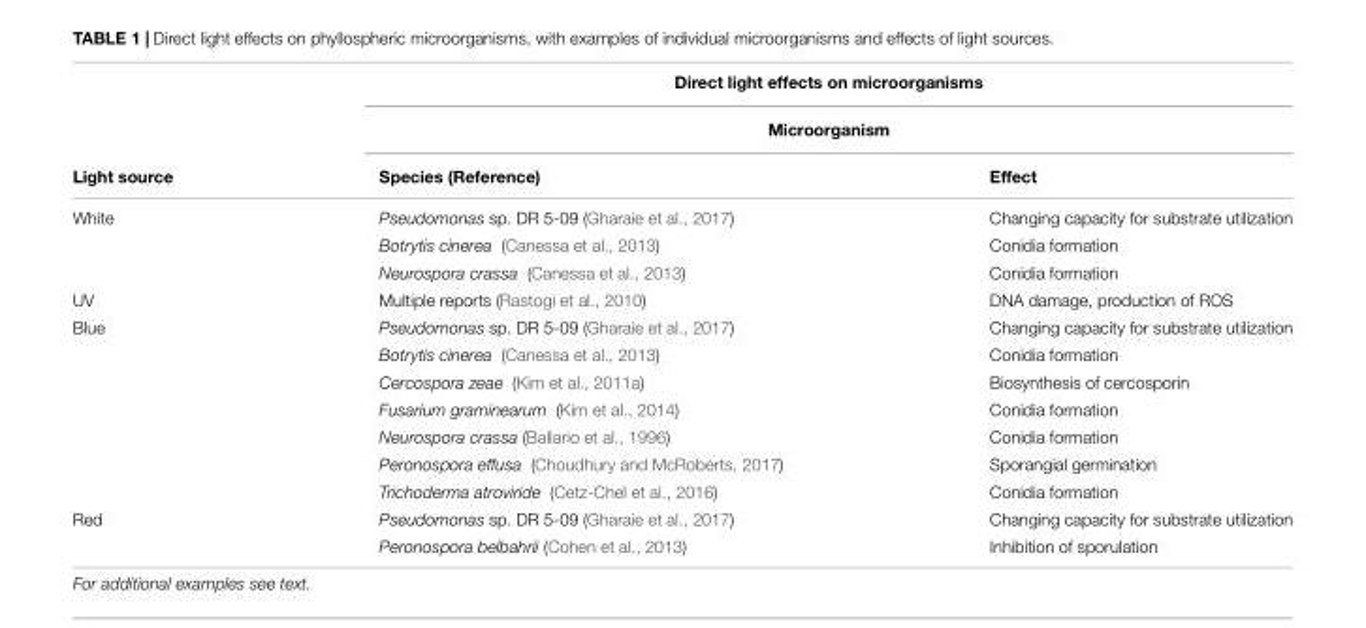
<table><thead><tr><td rowspan="3">Light source</td><td rowspan="2" colspan="2">Direct light effects on microorganisms Microorganism</td></tr><tr></tr><tr><td>Species (Reference)</td><td>Effect</td></tr></thead><tbody><tr><td rowspan="3">White</td><td>Pseudomonas sp. DR 5-09 (Gharaie et al., 2017)</td><td>Changing capacity for substrate utilization</td></tr><tr><td>Botrytis cinerea (Canessa et al., 2013)</td><td>Conidia formation</td></tr><tr><td>Neurospora crassa (Canessa et al., 2013)</td><td>Conidia formation</td></tr><tr><td>UV</td><td>Multiple reports (Rastogi et al., 2010)</td><td>DNA damage, production of ROS</td></tr><tr><td rowspan="7">Blue</td><td>Pseudomonas sp. DR 5-09 (Gharaie et al., 2017)</td><td>Changing capacity for substrate utilization</td></tr><tr><td>Botrytis cinerea (Canessa et al., 2013)</td><td>Conidia formation</td></tr><tr><td>Cercospora zeae (Kim et al., 2011a)</td><td>Biosynthesis of cercosporin</td></tr><tr><td>Fusarium graminearum (Kim et al., 2014)</td><td>Conidia formation</td></tr><tr><td>Neurospora crassa (Ballario et al., 1996)</td><td>Conidia formation</td></tr><tr><td>Peronospora effusa (Choudhury and McRoberts, 2017)</td><td>Sporangial germination</td></tr><tr><td>Trichoderma atroviride (Cetz-Chel et al., 2016)</td><td>Conidia formation</td></tr><tr><td rowspan="2">Red</td><td>Pseudomonas sp. DR 5-09 (Gharaie et al., 2017)</td><td>Changing capacity for substrate utilization</td></tr><tr><td>Peronospora belbahrii (Cohen et al., 2013)</td><td>Inhibition of sporulation</td></tr></tbody></table>